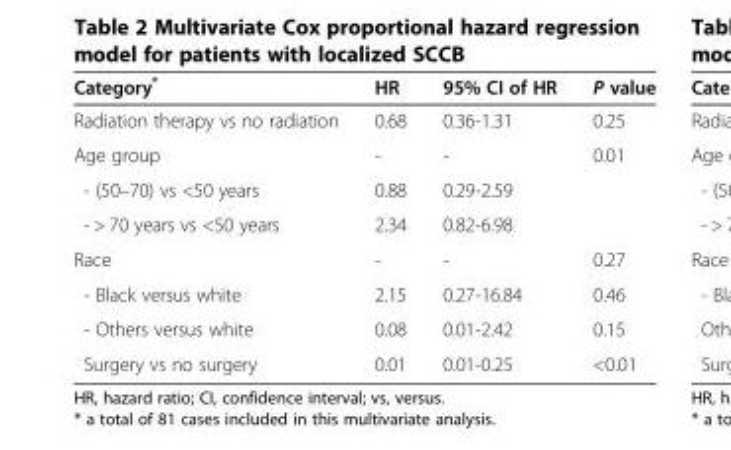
<table><thead><tr><td>Category*</td><td>HR</td><td>95% CI of HR</td><td>P value</td></tr></thead><tbody><tr><td>Radiation therapy vs no radiation</td><td>0.68</td><td>0.36-1.31</td><td>0.25</td></tr><tr><td>Age group</td><td>-</td><td>-</td><td>0.01</td></tr><tr><td>- (50–70) vs &lt;50 years</td><td>0.88</td><td>0.29-2.59</td><td></td></tr><tr><td>- &gt; 70 years vs &lt;50 years</td><td>2.34</td><td>0.82-6.98</td><td></td></tr><tr><td>Race</td><td>-</td><td>-</td><td>0.27</td></tr><tr><td>- Black versus white</td><td>2.15</td><td>0.27-16.84</td><td>0.46</td></tr><tr><td>- Others versus white</td><td>0.08</td><td>0.01-2.42</td><td>0.15</td></tr><tr><td>Surgery vs no surgery</td><td>0.01</td><td>0.01-0.25</td><td>&lt;0.01</td></tr></tbody></table>